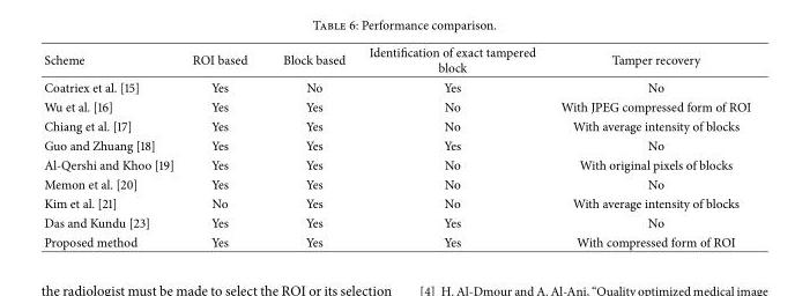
<table><thead><tr><td>Scheme</td><td>ROI based</td><td>Block based</td><td>Identification of exact tampered block</td><td>Tamper recovery</td></tr></thead><tbody><tr><td>Coatriex et al. [15]</td><td>Yes</td><td>No</td><td>Yes</td><td>No</td></tr><tr><td>Wu et al. [16]</td><td>Yes</td><td>Yes</td><td>No</td><td>With JPEG compressed form of ROI</td></tr><tr><td>Chiang et al. [17]</td><td>Yes</td><td>Yes</td><td>No</td><td>With average intensity of blocks</td></tr><tr><td>Guo and Zhuang [18]</td><td>Yes</td><td>Yes</td><td>Yes</td><td>No</td></tr><tr><td>Al-Qershi and Khoo [19]</td><td>Yes</td><td>Yes</td><td>No</td><td>With original pixels of blocks</td></tr><tr><td>Memon et al. [20]</td><td>Yes</td><td>Yes</td><td>No</td><td>No</td></tr><tr><td>Kim et al. [21]</td><td>No</td><td>Yes</td><td>No</td><td>With average intensity of blocks</td></tr><tr><td>Das and Kundu [23]</td><td>Yes</td><td>Yes</td><td>Yes</td><td>No</td></tr><tr><td>Proposed method</td><td>Yes</td><td>Yes</td><td>Yes</td><td>With compressed form of ROI</td></tr></tbody></table>